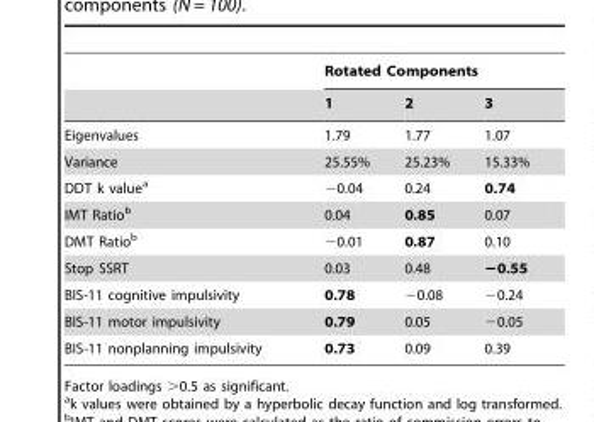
<table><thead><tr><td rowspan="2"></td><td colspan="3">Rotated Components</td></tr><tr><td>1</td><td>2</td><td>3</td></tr></thead><tbody><tr><td>Eigenvalues</td><td>1.79</td><td>1.77</td><td>1.07</td></tr><tr><td>Variance</td><td>25.55%</td><td>25.23%</td><td>15.33%</td></tr><tr><td>DDT k value<sup>a</sup></td><td>−0.04</td><td>0.24</td><td>0.74</td></tr><tr><td>IMT Ratio<sup>b</sup></td><td>0.04</td><td>0.85</td><td>0.07</td></tr><tr><td>DMT Ratio<sup>b</sup></td><td>−0.01</td><td>0.87</td><td>0.10</td></tr><tr><td>Stop SSRT</td><td>0.03</td><td>0.48</td><td>−0.55</td></tr><tr><td>BIS-11 cognitive impulsivity</td><td>0.78</td><td>−0.08</td><td>−0.24</td></tr><tr><td>BIS-11 motor impulsivity</td><td>0.79</td><td>0.05</td><td>−0.05</td></tr><tr><td>BIS-11 nonplanning impulsivity</td><td>0.73</td><td>0.09</td><td>0.39</td></tr></tbody></table>